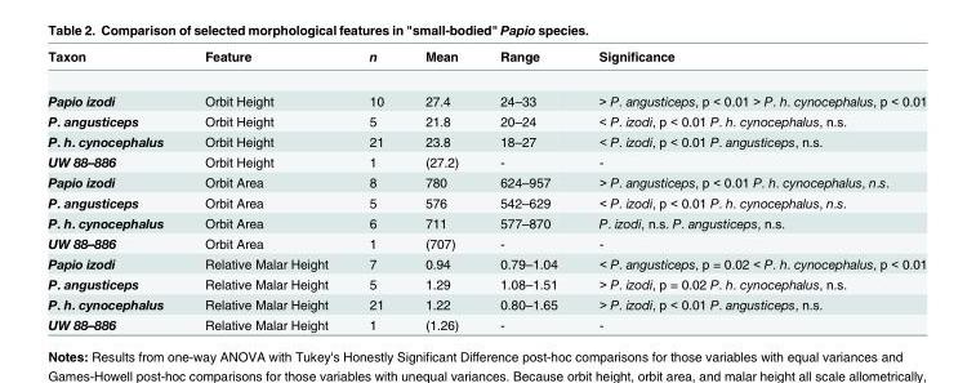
<table><thead><tr><td>Taxon</td><td>Feature</td><td>n</td><td>Mean</td><td>Range</td><td>Significance</td></tr></thead><tbody><tr><td>Papio izodi</td><td>Orbit Height</td><td>10</td><td>27.4</td><td>24–33</td><td>&gt; P. angusticeps, p &lt; 0.01 &gt; P. h. cynocephalus, p &lt; 0.01</td></tr><tr><td>P. angusticeps</td><td>Orbit Height</td><td>5</td><td>21.8</td><td>20–24</td><td>&lt; P. izodi, p &lt; 0.01 P. h. cynocephalus, n.s.</td></tr><tr><td>P. h. cynocephalus</td><td>Orbit Height</td><td>21</td><td>23.8</td><td>18–27</td><td>&lt; P. izodi, p &lt; 0.01 P. angusticeps, n.s.</td></tr><tr><td>UW 88–886</td><td>Orbit Height</td><td>1</td><td>(27.2)</td><td>-</td><td>-</td></tr><tr><td>Papio izodi</td><td>Orbit Area</td><td>8</td><td>780</td><td>624–957</td><td>&gt; P. angusticeps, p &lt; 0.01 P. h. cynocephalus, n.s.</td></tr><tr><td>P. angusticeps</td><td>Orbit Area</td><td>5</td><td>576</td><td>542–629</td><td>&lt; P. izodi, p &lt; 0.01 P. h. cynocephalus, n.s.</td></tr><tr><td>P. h. cynocephalus</td><td>Orbit Area</td><td>6</td><td>711</td><td>577–870</td><td>P. izodi, n.s. P. angusticeps, n.s.</td></tr><tr><td>UW 88–886</td><td>Orbit Area</td><td>1</td><td>(707)</td><td>-</td><td>-</td></tr><tr><td>Papio izodi</td><td>Relative Malar Height</td><td>7</td><td>0.94</td><td>0.79–1.04</td><td>&lt; P. angusticeps, p = 0.02 &lt; P. h. cynocephalus, p &lt; 0.01</td></tr><tr><td>P. angusticeps</td><td>Relative Malar Height</td><td>5</td><td>1.29</td><td>1.08–1.51</td><td>&gt; P. izodi, p = 0.02 P. h. cynocephalus, n.s.</td></tr><tr><td>P. h. cynocephalus</td><td>Relative Malar Height</td><td>21</td><td>1.22</td><td>0.80–1.65</td><td>&gt; P. izodi, p &lt; 0.01 P. angusticeps, n.s.</td></tr><tr><td>UW 88–886</td><td>Relative Malar Height</td><td>1</td><td>(1.26)</td><td>-</td><td>-</td></tr></tbody></table>